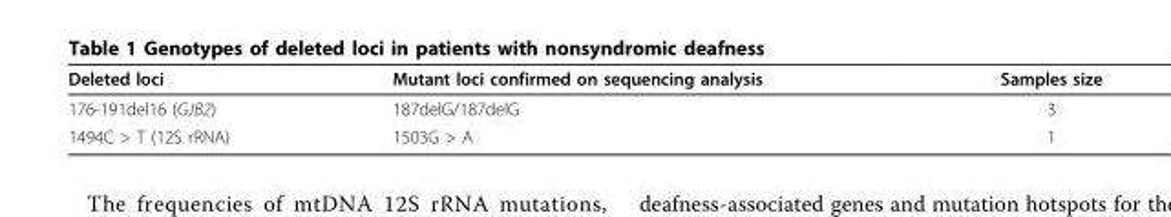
<table><thead><tr><td>Deleted loci</td><td>Mutant loci confirmed on sequencing analysis</td><td>Samples size</td></tr></thead><tbody><tr><td>176-191del16 (GJB2)</td><td>187delG/187delG</td><td>3</td></tr><tr><td>1494C &gt; T (12S rRNA)</td><td>1503G &gt; A</td><td>1</td></tr></tbody></table>